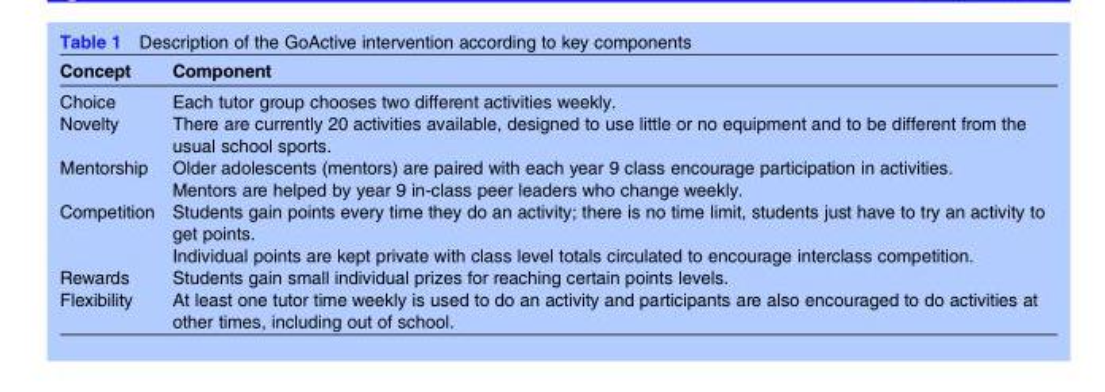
<table><thead><tr><td>Concept</td><td>Component</td></tr></thead><tbody><tr><td>Choice</td><td>Each tutor group chooses two different activities weekly.</td></tr><tr><td>Novelty</td><td>There are currently 20 activities available, designed to use little or no equipment and to be different from the usual school sports.</td></tr><tr><td>Mentorship</td><td>Older adolescents (mentors) are paired with each year 9 class encourage participation in activities. Mentors are helped by year 9 in-class peer leaders who change weekly.</td></tr><tr><td>Competition</td><td>Students gain points every time they do an activity; there is no time limit, students just have to try an activity to get points. Individual points are kept private with class level totals circulated to encourage interclass competition.</td></tr><tr><td>Rewards</td><td>Students gain small individual prizes for reaching certain points levels.</td></tr><tr><td>Flexibility</td><td>At least one tutor time weekly is used to do an activity and participants are also encouraged to do activities at other times, including out of school.</td></tr></tbody></table>